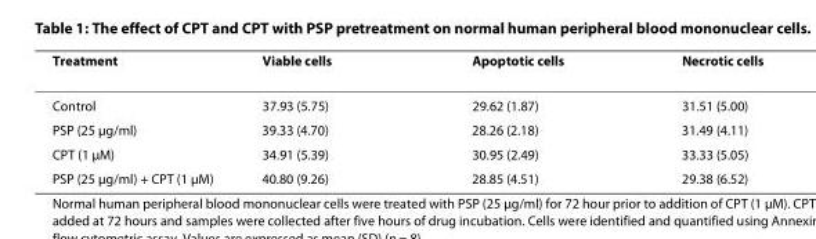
<table><thead><tr><td>Treatment</td><td>Viable cells</td><td>Apoptotic cells</td><td>Necrotic cells</td></tr></thead><tbody><tr><td>Control</td><td>37.93 (5.75)</td><td>29.62 (1.87)</td><td>31.51 (5.00)</td></tr><tr><td>PSP (25 μg/ml)</td><td>39.33 (4.70)</td><td>28.26 (2.18)</td><td>31.49 (4.11)</td></tr><tr><td>CPT (1 μM)</td><td>34.91 (5.39)</td><td>30.95 (2.49)</td><td>33.33 (5.05)</td></tr><tr><td>PSP (25 μg/ml) + CPT (1 μM)</td><td>40.80 (9.26)</td><td>28.85 (4.51)</td><td>29.38 (6.52)</td></tr></tbody></table>